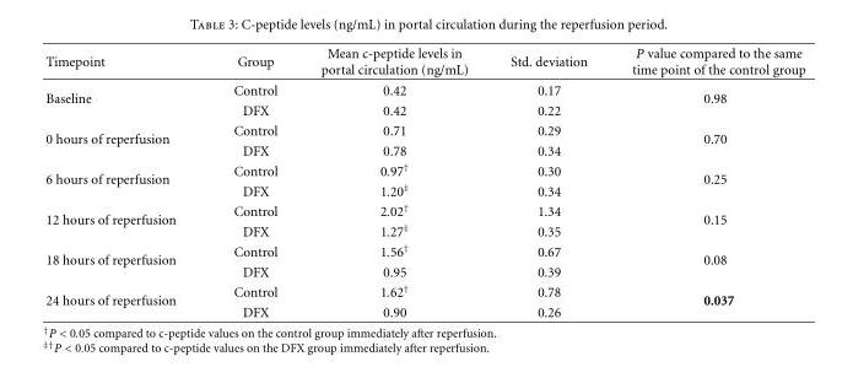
<table><thead><tr><td>Timepoint</td><td>Group</td><td>Mean c-peptide levels in portal circulation (ng/mL)</td><td>Std. deviation</td><td>P value compared to the same time point of the control group</td></tr></thead><tbody><tr><td rowspan="2">Baseline</td><td>Control</td><td>0.42</td><td>0.17</td><td rowspan="2">0.98</td></tr><tr><td>DFX</td><td>0.42</td><td>0.22</td></tr><tr><td rowspan="2">0 hours of reperfusion</td><td>Control</td><td>0.71</td><td>0.29</td><td rowspan="2">0.70</td></tr><tr><td>DFX</td><td>0.78</td><td>0.34</td></tr><tr><td rowspan="2">6 hours of reperfusion</td><td>Control</td><td>0.97<sup>†</sup></td><td>0.30</td><td rowspan="2">0.25</td></tr><tr><td>DFX</td><td>1.20<sup>‡</sup></td><td>0.34</td></tr><tr><td rowspan="2">12 hours of reperfusion</td><td>Control</td><td>2.02<sup>†</sup></td><td>1.34</td><td rowspan="2">0.15</td></tr><tr><td>DFX</td><td>1.27<sup>‡</sup></td><td>0.35</td></tr><tr><td rowspan="2">18 hours of reperfusion</td><td>Control</td><td>1.56<sup>†</sup></td><td>0.67</td><td rowspan="2">0.08</td></tr><tr><td>DFX</td><td>0.95</td><td>0.39</td></tr><tr><td rowspan="2">24 hours of reperfusion</td><td>Control</td><td>1.62<sup>†</sup></td><td>0.78</td><td rowspan="2">0.037</td></tr><tr><td>DFX</td><td>0.90</td><td>0.26</td></tr></tbody></table>